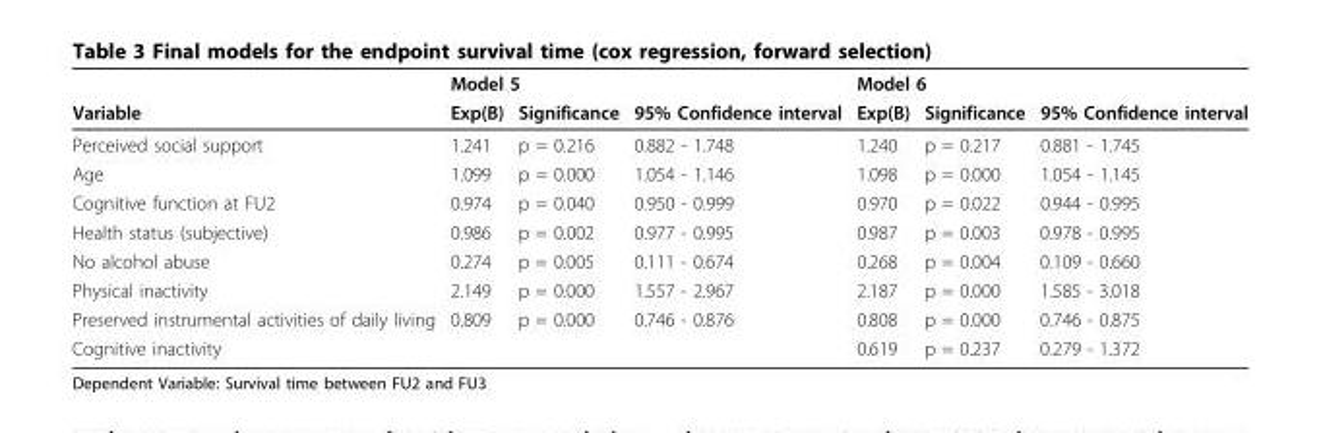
<table><thead><tr><td rowspan="2">Variable</td><td colspan="3">Model 5</td><td colspan="3">Model 6</td></tr><tr><td>Exp(B)</td><td>Significance</td><td>95% Confidence interval</td><td>Exp(B)</td><td>Significance</td><td>95% Confidence interval</td></tr></thead><tbody><tr><td>Perceived social support</td><td>1.241</td><td>p = 0.216</td><td>0.882 - 1.748</td><td>1.240</td><td>p = 0.217</td><td>0.881 - 1.745</td></tr><tr><td>Age</td><td>1.099</td><td>p = 0.000</td><td>1.054 - 1.146</td><td>1.098</td><td>p = 0.000</td><td>1.054 - 1.145</td></tr><tr><td>Cognitive function at FU2</td><td>0.974</td><td>p = 0.040</td><td>0.950 - 0.999</td><td>0.970</td><td>p = 0.022</td><td>0.944 - 0.995</td></tr><tr><td>Health status (subjective)</td><td>0.986</td><td>p = 0.002</td><td>0.977 - 0.995</td><td>0.987</td><td>p = 0.003</td><td>0.978 - 0.995</td></tr><tr><td>No alcohol abuse</td><td>0.274</td><td>p = 0.005</td><td>0.111 - 0.674</td><td>0.268</td><td>p = 0.004</td><td>0.109 - 0.660</td></tr><tr><td>Physical inactivity</td><td>2.149</td><td>p = 0.000</td><td>1.557 - 2.967</td><td>2.187</td><td>p = 0.000</td><td>1.585 - 3.018</td></tr><tr><td>Preserved instrumental activities of daily living</td><td>0.809</td><td>p = 0.000</td><td>0.746 - 0.876</td><td>0.808</td><td>p = 0.000</td><td>0.746 - 0.875</td></tr><tr><td>Cognitive inactivity</td><td></td><td></td><td></td><td>0.619</td><td>p = 0.237</td><td>0.279 - 1.372</td></tr></tbody></table>